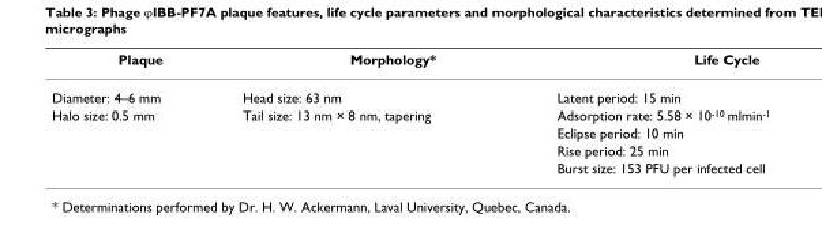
<table><thead><tr><td>Plaque</td><td>Morphology*</td><td>Life Cycle</td></tr></thead><tbody><tr><td>Diameter: 4–6 mm</td><td>Head size: 63 nm</td><td>Latent period: 15 min</td></tr><tr><td rowspan="4">Halo size: 0.5 mm</td><td>Tail size: 13 nm × 8 nm, tapering</td><td>Adsorption rate: 5.58 × 10<sup>-10</sup> mlmin<sup>-1</sup></td></tr><tr><td></td><td>Eclipse period: 10 min</td></tr><tr><td></td><td>Rise period: 25 min</td></tr><tr><td></td><td>Burst size: 153 PFU per infected cell</td></tr></tbody></table>